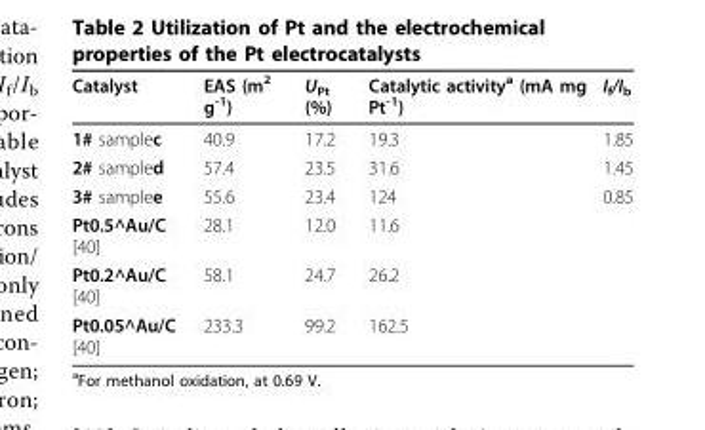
<table><thead><tr><td>Catalyst</td><td>EAS (m<sup>2</sup> g<sup>-1</sup>)</td><td>U<sub>Pt</sub> (%)</td><td>Catalytic activity<sup>a</sup> (mA mg Pt<sup>-1</sup>)</td><td>I<sub>f</sub>/I<sub>b</sub></td></tr></thead><tbody><tr><td>1# samplec</td><td>40.9</td><td>17.2</td><td>19.3</td><td>1.85</td></tr><tr><td>2# sampled</td><td>57.4</td><td>23.5</td><td>31.6</td><td>1.45</td></tr><tr><td>3# samplee</td><td>55.6</td><td>23.4</td><td>124</td><td>0.85</td></tr><tr><td>Pt0.5^Au/C [40]</td><td>28.1</td><td>12.0</td><td>11.6</td><td></td></tr><tr><td>Pt0.2^Au/C [40]</td><td>58.1</td><td>24.7</td><td>26.2</td><td></td></tr><tr><td>Pt0.05^Au/C [40]</td><td>233.3</td><td>99.2</td><td>162.5</td><td></td></tr></tbody></table>